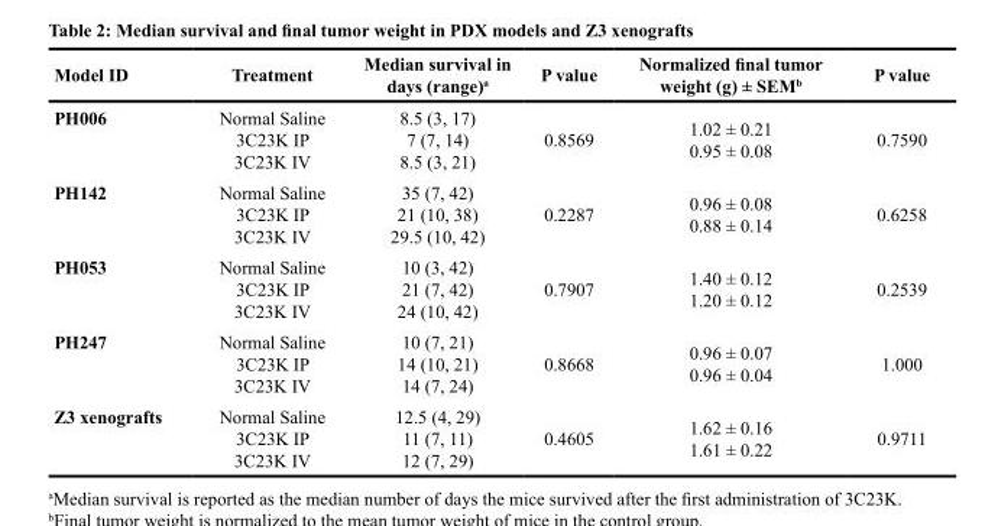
<table><thead><tr><td>Model ID</td><td>Treatment</td><td>Median survival in days (range)<sup>a</sup></td><td>P value</td><td>Normalized final tumor weight (g) ± SEM<sup>b</sup></td><td>P value</td></tr></thead><tbody><tr><td>PH006</td><td>Normal Saline 3C23K IP 3C23K IV</td><td>8.5 (3, 17) 7 (7, 14) 8.5 (3, 21)</td><td>0.8569</td><td>1.02 ± 0.21 0.95 ± 0.08</td><td>0.7590</td></tr><tr><td>PH142</td><td>Normal Saline 3C23K IP 3C23K IV</td><td>35 (7, 42) 21 (10, 38) 29.5 (10, 42)</td><td>0.2287</td><td>0.96 ± 0.08 0.88 ± 0.14</td><td>0.6258</td></tr><tr><td>PH053</td><td>Normal Saline 3C23K IP 3C23K IV</td><td>10 (3, 42) 21 (7, 42) 24 (10, 42)</td><td>0.7907</td><td>1.40 ± 0.12 1.20 ± 0.12</td><td>0.2539</td></tr><tr><td>PH247</td><td>Normal Saline 3C23K IP 3C23K IV</td><td>10 (7, 21) 14 (10, 21) 14 (7, 24)</td><td>0.8668</td><td>0.96 ± 0.07 0.96 ± 0.04</td><td>1.000</td></tr><tr><td>Z3 xenografts</td><td>Normal Saline 3C23K IP 3C23K IV</td><td>12.5 (4, 29) 11 (7, 11) 12 (7, 29)</td><td>0.4605</td><td>1.62 ± 0.16 1.61 ± 0.22</td><td>0.9711</td></tr></tbody></table>